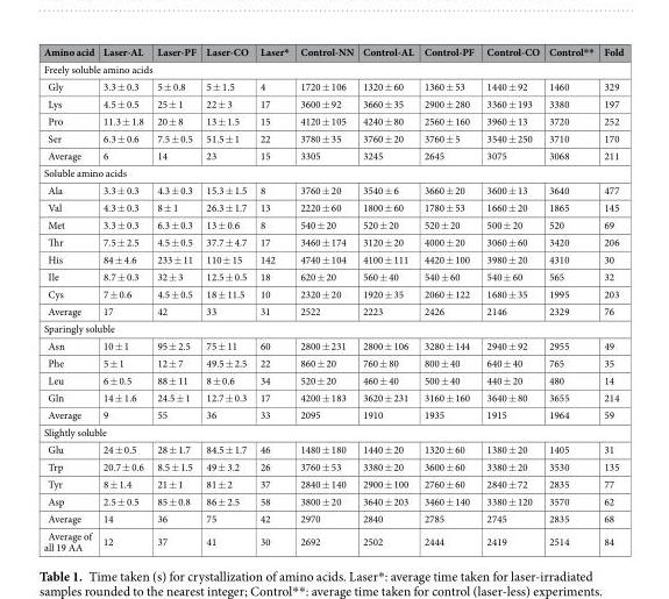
<table><thead><tr><td>Amino acid</td><td>Laser-AL</td><td>Laser-PF</td><td>Laser-CO</td><td>Laser*</td><td>Control-NN</td><td>Control-AL</td><td>Control-PF</td><td>Control-CO</td><td>Control**</td><td>Fold</td></tr></thead><tbody><tr><td colspan="11">Freely soluble amino acids</td></tr><tr><td>Gly</td><td>3.3 ± 0.3</td><td>5 ± 0.8</td><td>5 ± 1.5</td><td>4</td><td>1720 ± 106</td><td>1320 ± 60</td><td>1360 ± 53</td><td>1440 ± 92</td><td>1460</td><td>329</td></tr><tr><td>Lys</td><td>4.5 ± 0.5</td><td>25 ± 1</td><td>22 ± 3</td><td>17</td><td>3600 ± 92</td><td>3660 ± 35</td><td>2900 ± 280</td><td>3360 ± 193</td><td>3380</td><td>197</td></tr><tr><td>Pro</td><td>11.3 ± 1.8</td><td>20 ± 8</td><td>13 ± 1.5</td><td>15</td><td>4120 ± 105</td><td>4240 ± 80</td><td>2560 ± 160</td><td>3960 ± 13</td><td>3720</td><td>252</td></tr><tr><td>Ser</td><td>6.3 ± 0.6</td><td>7.5 ± 0.5</td><td>51.5 ± 1</td><td>22</td><td>3780 ± 35</td><td>3760 ± 20</td><td>3760 ± 5</td><td>3540 ± 250</td><td>3710</td><td>170</td></tr><tr><td>Average</td><td>6</td><td>14</td><td>23</td><td>15</td><td>3305</td><td>3245</td><td>2645</td><td>3075</td><td>3068</td><td>211</td></tr><tr><td colspan="11">Soluble amino acids</td></tr><tr><td>Ala</td><td>3.3 ± 0.3</td><td>4.3 ± 0.3</td><td>15.3 ± 1.5</td><td>8</td><td>3760 ± 20</td><td>3540 ± 6</td><td>3660 ± 20</td><td>3600 ± 13</td><td>3640</td><td>477</td></tr><tr><td>Val</td><td>4.3 ± 0.3</td><td>8 ± 1</td><td>26.3 ± 1.7</td><td>13</td><td>2220 ± 60</td><td>1800 ± 60</td><td>1780 ± 53</td><td>1660 ± 20</td><td>1865</td><td>145</td></tr><tr><td>Met</td><td>3.3 ± 0.3</td><td>6.3 ± 0.3</td><td>13 ± 0.6</td><td>8</td><td>540 ± 20</td><td>520 ± 20</td><td>520 ± 20</td><td>500 ± 20</td><td>520</td><td>69</td></tr><tr><td>Thr</td><td>7.5 ± 2.5</td><td>4.5 ± 0.5</td><td>37.7 ± 4.7</td><td>17</td><td>3460 ± 174</td><td>3120 ± 20</td><td>4000 ± 20</td><td>3060 ± 60</td><td>3420</td><td>206</td></tr><tr><td>His</td><td>84 ± 4.6</td><td>233 ± 11</td><td>110 ± 15</td><td>142</td><td>4740 ± 104</td><td>4100 ± 111</td><td>4420 ± 100</td><td>3980 ± 20</td><td>4310</td><td>30</td></tr><tr><td>Ile</td><td>8.7 ± 0.3</td><td>32 ± 3</td><td>12.5 ± 0.5</td><td>18</td><td>620 ± 20</td><td>560 ± 40</td><td>540 ± 60</td><td>540 ± 60</td><td>565</td><td>32</td></tr><tr><td>Cys</td><td>7 ± 0.6</td><td>4.5 ± 0.5</td><td>18 ± 11.5</td><td>10</td><td>2320 ± 20</td><td>1920 ± 35</td><td>2060 ± 122</td><td>1680 ± 35</td><td>1995</td><td>203</td></tr><tr><td>Average</td><td>17</td><td>42</td><td>33</td><td>31</td><td>2522</td><td>2223</td><td>2426</td><td>2146</td><td>2329</td><td>76</td></tr><tr><td colspan="11">Sparingly soluble</td></tr><tr><td>Asn</td><td>10 ± 1</td><td>95 ± 2.5</td><td>75 ± 11</td><td>60</td><td>2800 ± 231</td><td>2800 ± 106</td><td>3280 ± 144</td><td>2940 ± 92</td><td>2955</td><td>49</td></tr><tr><td>Phe</td><td>5 ± 1</td><td>12 ± 7</td><td>49.5 ± 2.5</td><td>22</td><td>860 ± 20</td><td>760 ± 80</td><td>800 ± 40</td><td>640 ± 40</td><td>765</td><td>35</td></tr><tr><td>Leu</td><td>6 ± 0.5</td><td>88 ± 11</td><td>8 ± 0.6</td><td>34</td><td>520 ± 20</td><td>460 ± 40</td><td>500 ± 40</td><td>440 ± 20</td><td>480</td><td>14</td></tr><tr><td>Gln</td><td>14 ± 1.6</td><td>24.5 ± 1</td><td>12.7 ± 0.3</td><td>17</td><td>4200 ± 183</td><td>3620 ± 231</td><td>3160 ± 160</td><td>3640 ± 80</td><td>3655</td><td>214</td></tr><tr><td>Average</td><td>9</td><td>55</td><td>36</td><td>33</td><td>2095</td><td>1910</td><td>1935</td><td>1915</td><td>1964</td><td>59</td></tr><tr><td colspan="11">Slightly soluble</td></tr><tr><td>Glu</td><td>24 ± 0.5</td><td>28 ± 1.7</td><td>84.5 ± 1.7</td><td>46</td><td>1480 ± 180</td><td>1440 ± 20</td><td>1320 ± 60</td><td>1380 ± 20</td><td>1405</td><td>31</td></tr><tr><td>Trp</td><td>20.7 ± 0.6</td><td>8.5 ± 1.5</td><td>49 ± 3.2</td><td>26</td><td>3760 ± 53</td><td>3380 ± 20</td><td>3600 ± 60</td><td>3380 ± 20</td><td>3530</td><td>135</td></tr><tr><td>Tyr</td><td>8 ± 1.4</td><td>21 ± 1</td><td>81 ± 2</td><td>37</td><td>2840 ± 140</td><td>2900 ± 100</td><td>2760 ± 60</td><td>2840 ± 72</td><td>2835</td><td>77</td></tr><tr><td>Asp</td><td>2.5 ± 0.5</td><td>85 ± 0.8</td><td>86 ± 2.5</td><td>58</td><td>3800 ± 20</td><td>3640 ± 203</td><td>3460 ± 140</td><td>3380 ± 120</td><td>3570</td><td>62</td></tr><tr><td>Average</td><td>14</td><td>36</td><td>75</td><td>42</td><td>2970</td><td>2840</td><td>2785</td><td>2745</td><td>2835</td><td>68</td></tr><tr><td>Average of all 19 AA</td><td>12</td><td>37</td><td>41</td><td>30</td><td>2692</td><td>2502</td><td>2444</td><td>2419</td><td>2514</td><td>84</td></tr></tbody></table>